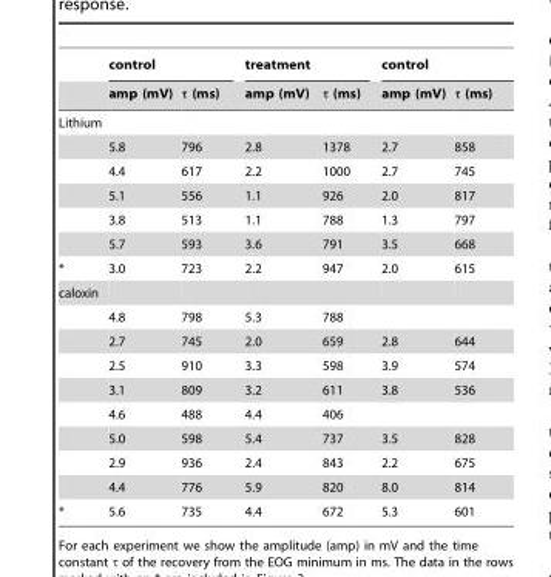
<table><thead><tr><td rowspan="2"></td><td colspan="2">control</td><td colspan="2">treatment</td><td colspan="2">control</td></tr><tr><td>amp (mV)</td><td>τ (ms)</td><td>amp (mV)</td><td>τ (ms)</td><td>amp (mV)</td><td>τ (ms)</td></tr></thead><tbody><tr><td colspan="7">Lithium</td></tr><tr><td></td><td>5.8</td><td>796</td><td>2.8</td><td>1378</td><td>2.7</td><td>858</td></tr><tr><td></td><td>4.4</td><td>617</td><td>2.2</td><td>1000</td><td>2.7</td><td>745</td></tr><tr><td></td><td>5.1</td><td>556</td><td>1.1</td><td>926</td><td>2.0</td><td>817</td></tr><tr><td></td><td>3.8</td><td>513</td><td>1.1</td><td>788</td><td>1.3</td><td>797</td></tr><tr><td></td><td>5.7</td><td>593</td><td>3.6</td><td>791</td><td>3.5</td><td>668</td></tr><tr><td>*</td><td>3.0</td><td>723</td><td>2.2</td><td>947</td><td>2.0</td><td>615</td></tr><tr><td colspan="7">caloxin</td></tr><tr><td></td><td>4.8</td><td>798</td><td>5.3</td><td>788</td><td></td><td></td></tr><tr><td></td><td>2.7</td><td>745</td><td>2.0</td><td>659</td><td>2.8</td><td>644</td></tr><tr><td></td><td>2.5</td><td>910</td><td>3.3</td><td>598</td><td>3.9</td><td>574</td></tr><tr><td></td><td>3.1</td><td>809</td><td>3.2</td><td>611</td><td>3.8</td><td>536</td></tr><tr><td></td><td>4.6</td><td>488</td><td>4.4</td><td>406</td><td></td><td></td></tr><tr><td></td><td>5.0</td><td>598</td><td>5.4</td><td>737</td><td>3.5</td><td>828</td></tr><tr><td></td><td>2.9</td><td>936</td><td>2.4</td><td>843</td><td>2.2</td><td>675</td></tr><tr><td></td><td>4.4</td><td>776</td><td>5.9</td><td>820</td><td>8.0</td><td>814</td></tr><tr><td>*</td><td>5.6</td><td>735</td><td>4.4</td><td>672</td><td>5.3</td><td>601</td></tr></tbody></table>